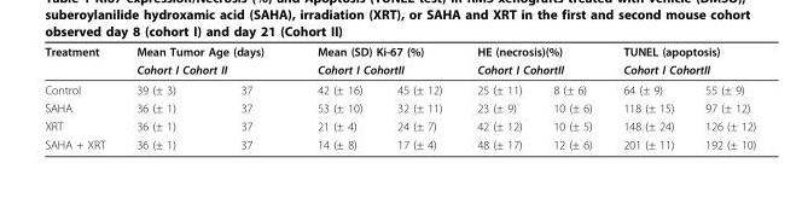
<table><thead><tr><td rowspan="3">Treatment Control</td><td rowspan="2" colspan="2">Mean Tumor Age (days) Cohort I Cohort II</td><td rowspan="2" colspan="2">Mean (SD) Ki-67 (%) Cohort I CohortII</td><td rowspan="2" colspan="2">HE (necrosis)(%) Cohort I CohortII</td><td rowspan="2" colspan="2">TUNEL (apoptosis) Cohort I CohortII</td></tr><tr></tr><tr><td>39 (± 3)</td><td>37</td><td>42 (± 16)</td><td>45 (± 12)</td><td>25 (± 11)</td><td>8 (± 6)</td><td>64 (± 9)</td><td>55 (± 9)</td></tr></thead><tbody><tr><td>SAHA</td><td>36 (± 1)</td><td>37</td><td>53 (± 10)</td><td>32 (± 11)</td><td>23 (± 9)</td><td>10 (± 6)</td><td>118 (± 15)</td><td>97 (± 12)</td></tr><tr><td>XRT</td><td>36 (± 1)</td><td>37</td><td>21 (± 4)</td><td>24 (± 7)</td><td>42 (± 12)</td><td>10 (± 5)</td><td>148 (± 24)</td><td>126 (± 12)</td></tr><tr><td>SAHA + XRT</td><td>36 (± 1)</td><td>37</td><td>14 (± 8)</td><td>17 (± 4)</td><td>48 (± 17)</td><td>12 (± 6)</td><td>201 (± 11)</td><td>192 (± 10)</td></tr></tbody></table>